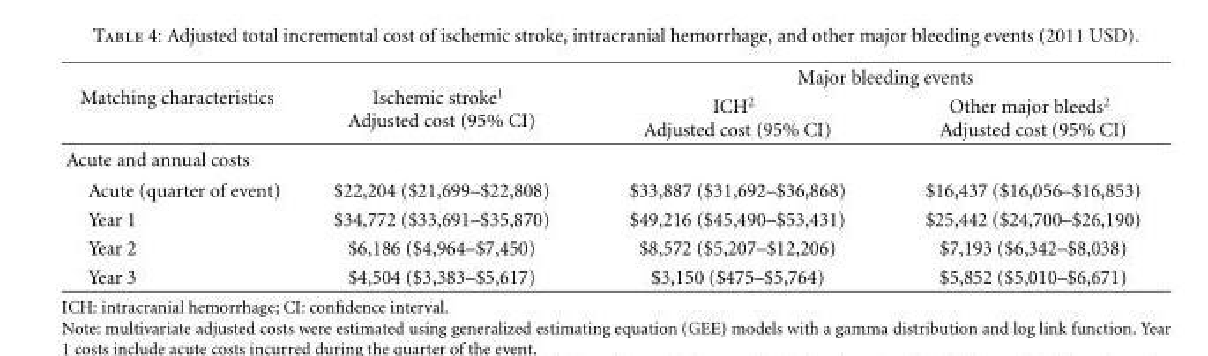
<table><thead><tr><td rowspan="2">Matching characteristics</td><td rowspan="2">Ischemic stroke<sup>1</sup> Adjusted cost (95% CI)</td><td colspan="2">Major bleeding events</td></tr><tr><td>ICH<sup>2</sup> Adjusted cost (95% CI)</td><td>Other major bleeds<sup>2</sup> Adjusted cost (95% CI)</td></tr></thead><tbody><tr><td colspan="4">Acute and annual costs</td></tr><tr><td>Acute (quarter of event)</td><td>$22,204 ($21,699–$22,808)</td><td>$33,887 ($31,692–$36,868)</td><td>$16,437 ($16,056–$16,853)</td></tr><tr><td>Year 1</td><td>$34,772 ($33,691–$35,870)</td><td>$49,216 ($45,490–$53,431)</td><td>$25,442 ($24,700–$26,190)</td></tr><tr><td>Year 2</td><td>$6,186 ($4,964–$7,450)</td><td>$8,572 ($5,207–$12,206)</td><td>$7,193 ($6,342–$8,038)</td></tr><tr><td>Year 3</td><td>$4,504 ($3,383–$5,617)</td><td>$3,150 ($475–$5,764)</td><td>$5,852 ($5,010–$6,671)</td></tr></tbody></table>